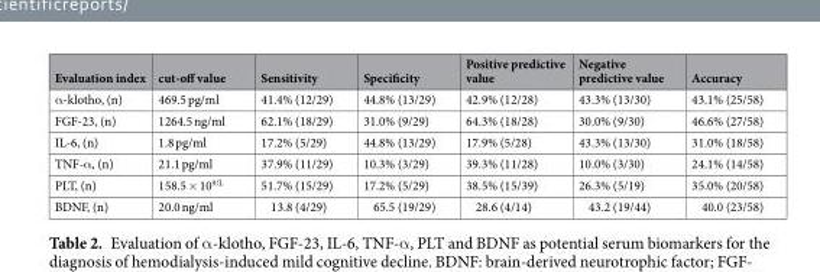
<table><thead><tr><td>Evaluation index</td><td>cut-off value</td><td>Sensitivity</td><td>Specificity</td><td>Positive predictive value</td><td>Negative predictive value</td><td>Accuracy</td></tr></thead><tbody><tr><td>α-klotho, (n)</td><td>469.5 pg/ml</td><td>41.4% (12/29)</td><td>44.8% (13/29)</td><td>42.9% (12/28)</td><td>43.3% (13/30)</td><td>43.1% (25/58)</td></tr><tr><td>FGF-23, (n)</td><td>1264.5 ng/ml</td><td>62.1% (18/29)</td><td>31.0% (9/29)</td><td>64.3% (18/28)</td><td>30.0% (9/30)</td><td>46.6% (27/58)</td></tr><tr><td>IL-6, (n)</td><td>1.8 pg/ml</td><td>17.2% (5/29)</td><td>44.8% (13/29)</td><td>17.9% (5/28)</td><td>43.3% (13/30)</td><td>31.0% (18/58)</td></tr><tr><td>TNF-α, (n)</td><td>21.1 pg/ml</td><td>37.9% (11/29)</td><td>10.3% (3/29)</td><td>39.3% (11/28)</td><td>10.0% (3/30)</td><td>24.1% (14/58)</td></tr><tr><td>PLT, (n)</td><td>158.5 × 10<sup>9/L</sup></td><td>51.7% (15/29)</td><td>17.2% (5/29)</td><td>38.5% (15/39)</td><td>26.3% (5/19)</td><td>35.0% (20/58)</td></tr><tr><td>BDNF, (n)</td><td>20.0 ng/ml</td><td>13.8 (4/29)</td><td>65.5 (19/29)</td><td>28.6 (4/14)</td><td>43.2 (19/44)</td><td>40.0 (23/58)</td></tr></tbody></table>